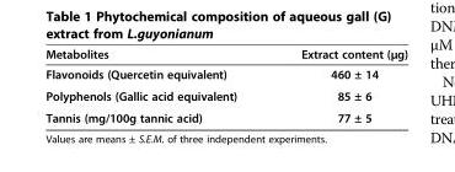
<table><thead><tr><td>Metabolites</td><td>Extract content (μg)</td></tr></thead><tbody><tr><td>Flavonoids (Quercetin equivalent)</td><td>460 ± 14</td></tr><tr><td>Polyphenols (Gallic acid equivalent)</td><td>85 ± 6</td></tr><tr><td>Tannis (mg/100g tannic acid)</td><td>77 ± 5</td></tr></tbody></table>